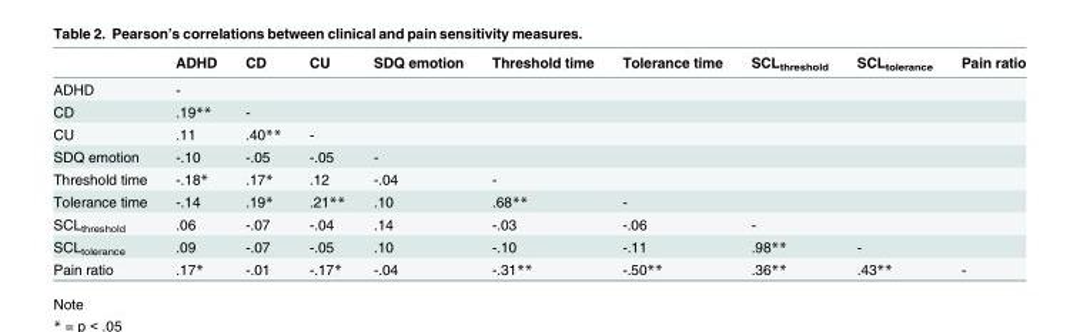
<table><thead><tr><td></td><td>ADHD</td><td>CD</td><td>CU</td><td>SDQ emotion</td><td>Threshold time</td><td>Tolerance time</td><td>SCL<sub>threshold</sub></td><td>SCL<sub>tolerance</sub></td><td>Pain ratio</td></tr></thead><tbody><tr><td>ADHD</td><td>-</td><td></td><td></td><td></td><td></td><td></td><td></td><td></td><td></td></tr><tr><td>CD</td><td>.19**</td><td>-</td><td></td><td></td><td></td><td></td><td></td><td></td><td></td></tr><tr><td>CU</td><td>.11</td><td>.40**</td><td>-</td><td></td><td></td><td></td><td></td><td></td><td></td></tr><tr><td>SDQ emotion</td><td>-.10</td><td>-.05</td><td>-.05</td><td>-</td><td></td><td></td><td></td><td></td><td></td></tr><tr><td>Threshold time</td><td>-.18*</td><td>.17*</td><td>.12</td><td>-.04</td><td>-</td><td></td><td></td><td></td><td></td></tr><tr><td>Tolerance time</td><td>-.14</td><td>.19*</td><td>.21**</td><td>.10</td><td>.68**</td><td>-</td><td></td><td></td><td></td></tr><tr><td>SCL<sub>threshold</sub></td><td>.06</td><td>-.07</td><td>-.04</td><td>.14</td><td>-.03</td><td>-.06</td><td>-</td><td></td><td></td></tr><tr><td>SCL<sub>tolerance</sub></td><td>.09</td><td>-.07</td><td>-.05</td><td>.10</td><td>-.10</td><td>-.11</td><td>.98**</td><td>-</td><td></td></tr><tr><td>Pain ratio</td><td>.17*</td><td>-.01</td><td>-.17*</td><td>-.04</td><td>-.31**</td><td>-.50**</td><td>.36**</td><td>.43**</td><td>-</td></tr></tbody></table>